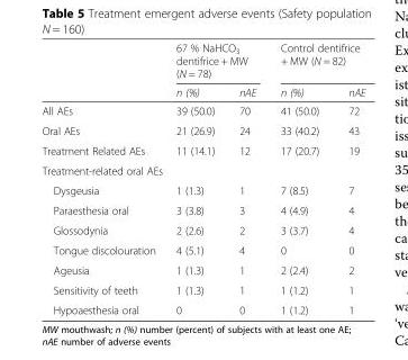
<table><thead><tr><td rowspan="2"></td><td colspan="2">67 % NaHCO<sub>3</sub> dentifrice + MW (N = 78)</td><td colspan="2">Control dentifrice + MW (N = 82)</td></tr><tr><td>n (%)</td><td>nAE</td><td>n (%)</td><td>nAE</td></tr></thead><tbody><tr><td>All AEs</td><td>39 (50.0)</td><td>70</td><td>41 (50.0)</td><td>72</td></tr><tr><td>Oral AEs</td><td>21 (26.9)</td><td>24</td><td>33 (40.2)</td><td>43</td></tr><tr><td>Treatment Related AEs</td><td>11 (14.1)</td><td>12</td><td>17 (20.7)</td><td>19</td></tr><tr><td colspan="5">Treatment-related oral AEs</td></tr><tr><td>Dysgeusia</td><td>1 (1.3)</td><td>1</td><td>7 (8.5)</td><td>7</td></tr><tr><td>Paraesthesia oral</td><td>3 (3.8)</td><td>3</td><td>4 (4.9)</td><td>4</td></tr><tr><td>Glossodynia</td><td>2 (2.6)</td><td>2</td><td>3 (3.7)</td><td>4</td></tr><tr><td>Tongue discolouration</td><td>4 (5.1)</td><td>4</td><td>0</td><td>0</td></tr><tr><td>Ageusia</td><td>1 (1.3)</td><td>1</td><td>2 (2.4)</td><td>2</td></tr><tr><td>Sensitivity of teeth</td><td>1 (1.3)</td><td>1</td><td>1 (1.2)</td><td>1</td></tr><tr><td>Hypoaesthesia oral</td><td>0</td><td>0</td><td>1 (1.2)</td><td>1</td></tr></tbody></table>